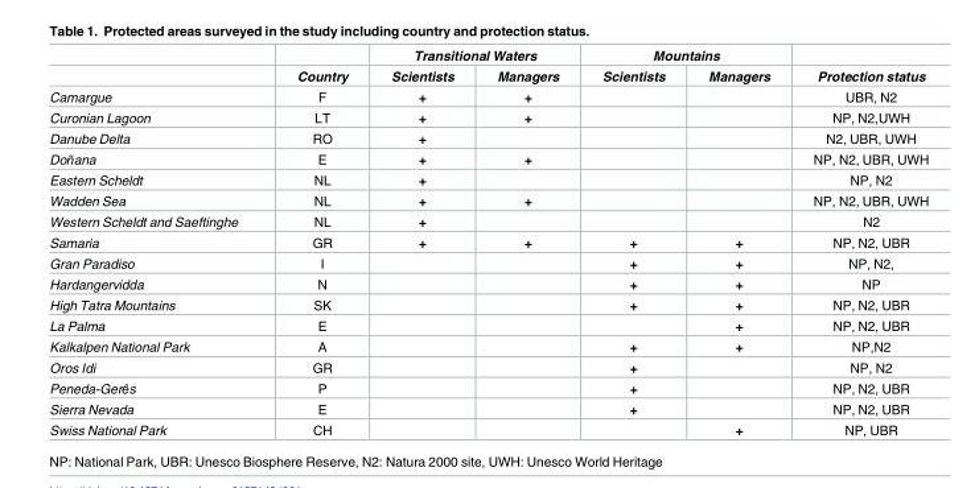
<table><thead><tr><td rowspan="2"></td><td rowspan="2">Country</td><td colspan="2">Transitional Waters</td><td colspan="2">Mountains</td><td rowspan="2">Protection status</td></tr><tr><td>Scientists</td><td>Managers</td><td>Scientists</td><td>Managers</td></tr></thead><tbody><tr><td>Camargue</td><td>F</td><td>+</td><td>+</td><td></td><td></td><td>UBR, N2</td></tr><tr><td>Curonian Lagoon</td><td>LT</td><td>+</td><td>+</td><td></td><td></td><td>NP, N2,UWH</td></tr><tr><td>Danube Delta</td><td>RO</td><td>+</td><td></td><td></td><td></td><td>N2, UBR, UWH</td></tr><tr><td>Doñana</td><td>E</td><td>+</td><td>+</td><td></td><td></td><td>NP, N2, UBR, UWH</td></tr><tr><td>Eastern Scheldt</td><td>NL</td><td>+</td><td></td><td></td><td></td><td>NP, N2</td></tr><tr><td>Wadden Sea</td><td>NL</td><td>+</td><td>+</td><td></td><td></td><td>NP, N2, UBR, UWH</td></tr><tr><td>Western Scheldt and Saeftinghe</td><td>NL</td><td>+</td><td></td><td></td><td></td><td>N2</td></tr><tr><td>Samaria</td><td>GR</td><td>+</td><td>+</td><td>+</td><td>+</td><td>NP, N2, UBR</td></tr><tr><td>Gran Paradiso</td><td>I</td><td></td><td></td><td>+</td><td>+</td><td>NP, N2,</td></tr><tr><td>Hardangervidda</td><td>N</td><td></td><td></td><td>+</td><td>+</td><td>NP</td></tr><tr><td>High Tatra Mountains</td><td>SK</td><td></td><td></td><td>+</td><td>+</td><td>NP, N2, UBR</td></tr><tr><td>La Palma</td><td>E</td><td></td><td></td><td></td><td>+</td><td>NP, N2, UBR</td></tr><tr><td>Kalkalpen National Park</td><td>A</td><td></td><td></td><td>+</td><td>+</td><td>NP,N2</td></tr><tr><td>Oros Idi</td><td>GR</td><td></td><td></td><td>+</td><td></td><td>NP, N2</td></tr><tr><td>Peneda-Gerês</td><td>P</td><td></td><td></td><td>+</td><td></td><td>NP, N2, UBR</td></tr><tr><td>Sierra Nevada</td><td>E</td><td></td><td></td><td>+</td><td></td><td>NP, N2, UBR</td></tr><tr><td>Swiss National Park</td><td>CH</td><td></td><td></td><td></td><td>+</td><td>NP, UBR</td></tr></tbody></table>